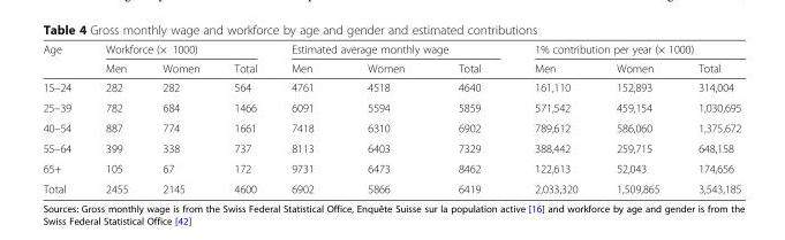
<table><thead><tr><td rowspan="2">Age</td><td colspan="3">Workforce (× 1000)</td><td colspan="3">Estimated average monthly wage</td><td colspan="3">1% contribution per year (× 1000)</td></tr><tr><td>Men</td><td>Women</td><td>Total</td><td>Men</td><td>Women</td><td>Total</td><td>Men</td><td>Women</td><td>Total</td></tr></thead><tbody><tr><td>15–24</td><td>282</td><td>282</td><td>564</td><td>4761</td><td>4518</td><td>4640</td><td>161,110</td><td>152,893</td><td>314,004</td></tr><tr><td>25–39</td><td>782</td><td>684</td><td>1466</td><td>6091</td><td>5594</td><td>5859</td><td>571,542</td><td>459,154</td><td>1,030,695</td></tr><tr><td>40–54</td><td>887</td><td>774</td><td>1661</td><td>7418</td><td>6310</td><td>6902</td><td>789,612</td><td>586,060</td><td>1,375,672</td></tr><tr><td>55–64</td><td>399</td><td>338</td><td>737</td><td>8113</td><td>6403</td><td>7329</td><td>388,442</td><td>259,715</td><td>648,158</td></tr><tr><td>65+</td><td>105</td><td>67</td><td>172</td><td>9731</td><td>6473</td><td>8462</td><td>122,613</td><td>52,043</td><td>174,656</td></tr><tr><td>Total</td><td>2455</td><td>2145</td><td>4600</td><td>6902</td><td>5866</td><td>6419</td><td>2,033,320</td><td>1,509,865</td><td>3,543,185</td></tr></tbody></table>